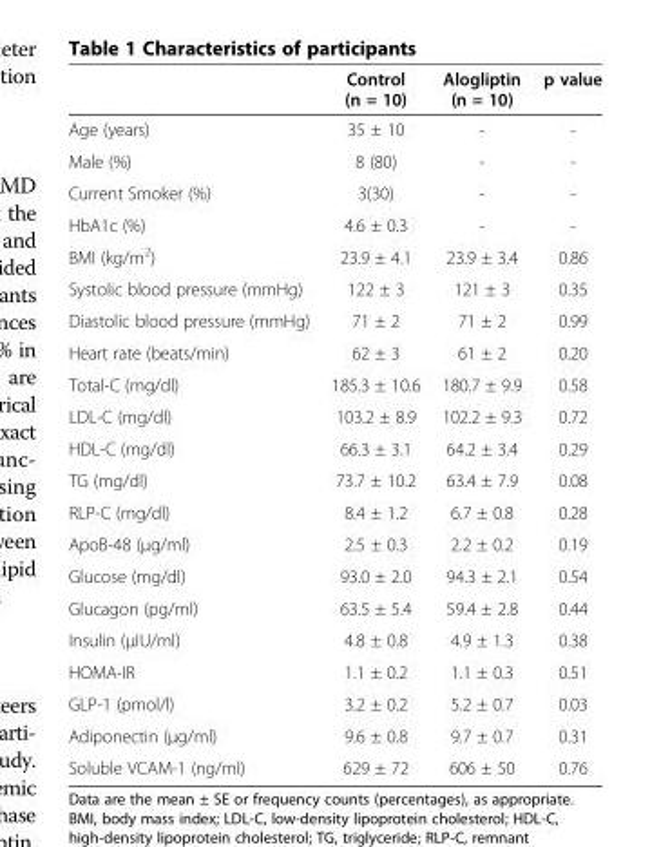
<table><thead><tr><td></td><td>Control (n = 10)</td><td>Alogliptin (n = 10)</td><td>p value</td></tr></thead><tbody><tr><td>Age (years)</td><td>35 ± 10</td><td>-</td><td>-</td></tr><tr><td>Male (%)</td><td>8 (80)</td><td>-</td><td>-</td></tr><tr><td>Current Smoker (%)</td><td>3(30)</td><td>-</td><td>-</td></tr><tr><td>HbA1c (%)</td><td>4.6 ± 0.3</td><td>-</td><td>-</td></tr><tr><td>BMI (kg/m<sup>2</sup>)</td><td>23.9 ± 4.1</td><td>23.9 ± 3.4</td><td>0.86</td></tr><tr><td>Systolic blood pressure (mmHg)</td><td>122 ± 3</td><td>121 ± 3</td><td>0.35</td></tr><tr><td>Diastolic blood pressure (mmHg)</td><td>71 ± 2</td><td>71 ± 2</td><td>0.99</td></tr><tr><td>Heart rate (beats/min)</td><td>62 ± 3</td><td>61 ± 2</td><td>0.20</td></tr><tr><td>Total-C (mg/dl)</td><td>185.3 ± 10.6</td><td>180.7 ± 9.9</td><td>0.58</td></tr><tr><td>LDL-C (mg/dl)</td><td>103.2 ± 8.9</td><td>102.2 ± 9.3</td><td>0.72</td></tr><tr><td>HDL-C (mg/dl)</td><td>66.3 ± 3.1</td><td>64.2 ± 3.4</td><td>0.29</td></tr><tr><td>TG (mg/dl)</td><td>73.7 ± 10.2</td><td>63.4 ± 7.9</td><td>0.08</td></tr><tr><td>RLP-C (mg/dl)</td><td>8.4 ± 1.2</td><td>6.7 ± 0.8</td><td>0.28</td></tr><tr><td>ApoB-48 (μg/ml)</td><td>2.5 ± 0.3</td><td>2.2 ± 0.2</td><td>0.19</td></tr><tr><td>Glucose (mg/dl)</td><td>93.0 ± 2.0</td><td>94.3 ± 2.1</td><td>0.54</td></tr><tr><td>Glucagon (pg/ml)</td><td>63.5 ± 5.4</td><td>59.4 ± 2.8</td><td>0.44</td></tr><tr><td>Insulin (μIU/ml)</td><td>4.8 ± 0.8</td><td>4.9 ± 1.3</td><td>0.38</td></tr><tr><td>HOMA-IR</td><td>1.1 ± 0.2</td><td>1.1 ± 0.3</td><td>0.51</td></tr><tr><td>GLP-1 (pmol/l)</td><td>3.2 ± 0.2</td><td>5.2 ± 0.7</td><td>0.03</td></tr><tr><td>Adiponectin (μg/ml)</td><td>9.6 ± 0.8</td><td>9.7 ± 0.7</td><td>0.31</td></tr><tr><td>Soluble VCAM-1 (ng/ml)</td><td>629 ± 72</td><td>606 ± 50</td><td>0.76</td></tr></tbody></table>